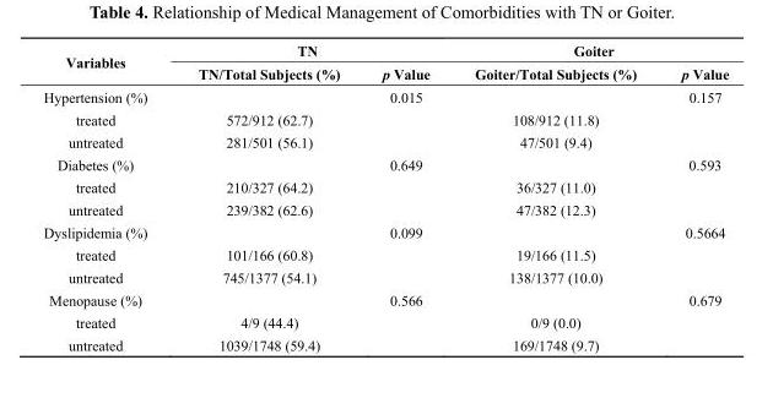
<table><thead><tr><td rowspan="2">Variables</td><td colspan="2">TN</td><td colspan="2">Goiter</td></tr><tr><td>TN/Total Subjects (%)</td><td>p Value</td><td>Goiter/Total Subjects (%)</td><td>p Value</td></tr></thead><tbody><tr><td>Hypertension (%)</td><td></td><td>0.015</td><td></td><td>0.157</td></tr><tr><td>treated</td><td>572/912 (62.7)</td><td></td><td>108/912 (11.8)</td><td></td></tr><tr><td>untreated</td><td>281/501 (56.1)</td><td></td><td>47/501 (9.4)</td><td></td></tr><tr><td>Diabetes (%)</td><td></td><td>0.649</td><td></td><td>0.593</td></tr><tr><td>treated</td><td>210/327 (64.2)</td><td></td><td>36/327 (11.0)</td><td></td></tr><tr><td>untreated</td><td>239/382 (62.6)</td><td></td><td>47/382 (12.3)</td><td></td></tr><tr><td>Dyslipidemia (%)</td><td></td><td>0.099</td><td></td><td>0.5664</td></tr><tr><td>treated</td><td>101/166 (60.8)</td><td></td><td>19/166 (11.5)</td><td></td></tr><tr><td>untreated</td><td>745/1377 (54.1)</td><td></td><td>138/1377 (10.0)</td><td></td></tr><tr><td>Menopause (%)</td><td></td><td>0.566</td><td></td><td>0.679</td></tr><tr><td>treated</td><td>4/9 (44.4)</td><td></td><td>0/9 (0.0)</td><td></td></tr><tr><td>untreated</td><td>1039/1748 (59.4)</td><td></td><td>169/1748 (9.7)</td><td></td></tr></tbody></table>